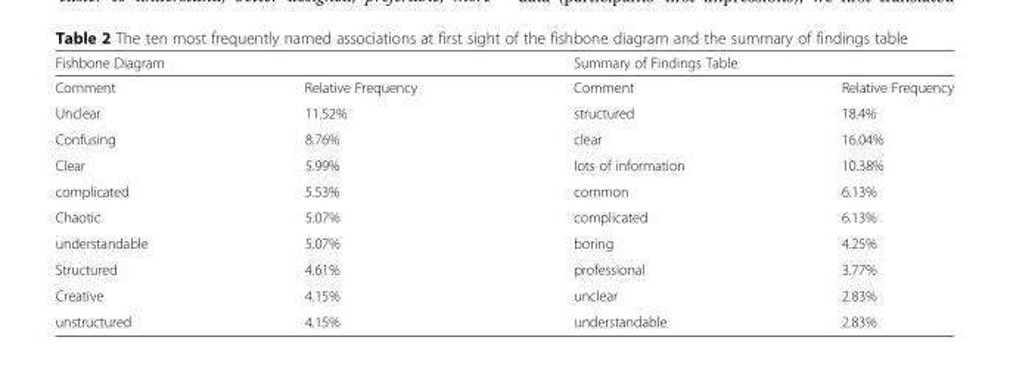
<table><thead><tr><td colspan="2">Fishbone Diagram</td><td colspan="2">Summary of Findings Table</td></tr><tr><td>Comment</td><td>Relative Frequency</td><td>Comment</td><td>Relative Frequency</td></tr></thead><tbody><tr><td>Unclear</td><td>11.52%</td><td>structured</td><td>18.4%</td></tr><tr><td>Confusing</td><td>8.76%</td><td>clear</td><td>16.04%</td></tr><tr><td>Clear</td><td>5.99%</td><td>lots of information</td><td>10.38%</td></tr><tr><td>complicated</td><td>5.53%</td><td>common</td><td>6.13%</td></tr><tr><td>Chaotic</td><td>5.07%</td><td>complicated</td><td>6.13%</td></tr><tr><td>understandable</td><td>5.07%</td><td>boring</td><td>4.25%</td></tr><tr><td>Structured</td><td>4.61%</td><td>professional</td><td>3.77%</td></tr><tr><td>Creative</td><td>4.15%</td><td>unclear</td><td>2.83%</td></tr><tr><td>unstructured</td><td>4.15%</td><td>understandable</td><td>2.83%</td></tr></tbody></table>